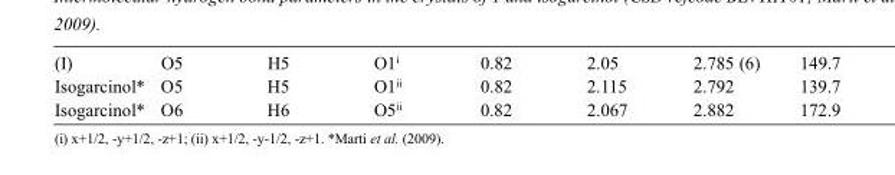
<table><tbody><tr><td>(I)</td><td>O5</td><td>H5</td><td>O1<sup>i</sup></td><td>0.82</td><td>2.05</td><td>2.785 (6)</td><td>149.7</td></tr><tr><td>Isogarcinol*</td><td>O5</td><td>H5</td><td>O1<sup>ii</sup></td><td>0.82</td><td>2.115</td><td>2.792</td><td>139.7</td></tr><tr><td>Isogarcinol*</td><td>O6</td><td>H6</td><td>O5<sup>ii</sup></td><td>0.82</td><td>2.067</td><td>2.882</td><td>172.9</td></tr></tbody></table>